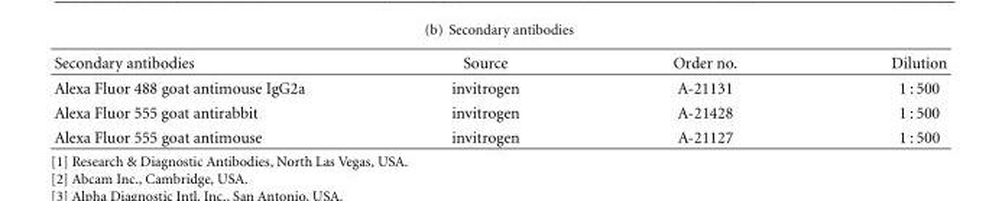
<table><thead><tr><td>Secondary antibodies</td><td>Source</td><td>Order no.</td><td>Dilution</td></tr></thead><tbody><tr><td>Alexa Fluor 488 goat antimouse IgG2a</td><td>invitrogen</td><td>A-21131</td><td>1 : 500</td></tr><tr><td>Alexa Fluor 555 goat antirabbit</td><td>invitrogen</td><td>A-21428</td><td>1 : 500</td></tr><tr><td>Alexa Fluor 555 goat antimouse</td><td>invitrogen</td><td>A-21127</td><td>1 : 500</td></tr></tbody></table>